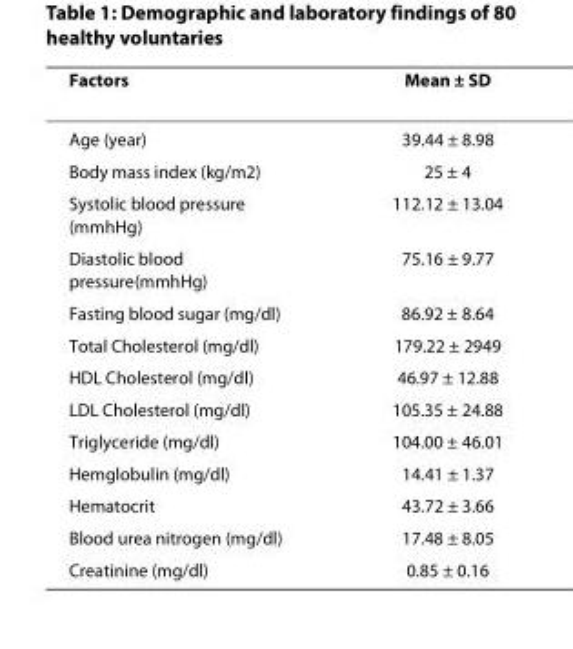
<table><thead><tr><td>Factors</td><td>Mean ± SD</td></tr></thead><tbody><tr><td>Age (year)</td><td>39.44 ± 8.98</td></tr><tr><td>Body mass index (kg/m2)</td><td>25 ± 4</td></tr><tr><td>Systolic blood pressure (mmhHg)</td><td>112.12 ± 13.04</td></tr><tr><td>Diastolic blood pressure(mmhHg)</td><td>75.16 ± 9.77</td></tr><tr><td>Fasting blood sugar (mg/dl)</td><td>86.92 ± 8.64</td></tr><tr><td>Total Cholesterol (mg/dl)</td><td>179.22 ± 2949</td></tr><tr><td>HDL Cholesterol (mg/dl)</td><td>46.97 ± 12.88</td></tr><tr><td>LDL Cholesterol (mg/dl)</td><td>105.35 ± 24.88</td></tr><tr><td>Triglyceride (mg/dl)</td><td>104.00 ± 46.01</td></tr><tr><td>Hemglobulin (mg/dl)</td><td>14.41 ± 1.37</td></tr><tr><td>Hematocrit</td><td>43.72 ± 3.66</td></tr><tr><td>Blood urea nitrogen (mg/dl)</td><td>17.48 ± 8.05</td></tr><tr><td>Creatinine (mg/dl)</td><td>0.85 ± 0.16</td></tr></tbody></table>